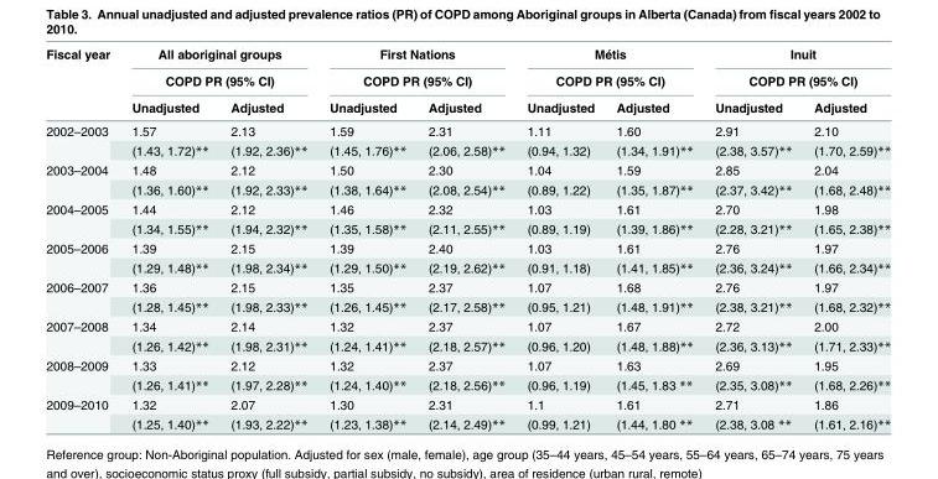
<table><thead><tr><td rowspan="3">Fiscal year</td><td rowspan="2" colspan="2">All aboriginal groups COPD PR (95% CI)</td><td rowspan="2" colspan="2">First Nations COPD PR (95% CI)</td><td rowspan="2" colspan="2">Métis COPD PR (95% CI)</td><td rowspan="2" colspan="2">Inuit COPD PR (95% CI)</td></tr><tr></tr><tr><td>Unadjusted</td><td>Adjusted</td><td>Unadjusted</td><td>Adjusted</td><td>Unadjusted</td><td>Adjusted</td><td>Unadjusted</td><td>Adjusted</td></tr></thead><tbody><tr><td rowspan="2">2002–2003</td><td>1.57</td><td>2.13</td><td>1.59</td><td>2.31</td><td>1.11</td><td>1.60</td><td>2.91</td><td>2.10</td></tr><tr><td>(1.43, 1.72)**</td><td>(1.92, 2.36)**</td><td>(1.45, 1.76)**</td><td>(2.06, 2.58)**</td><td>(0.94, 1.32)</td><td>(1.34, 1.91)**</td><td>(2.38, 3.57)**</td><td>(1.70, 2.59)**</td></tr><tr><td rowspan="2">2003–2004</td><td>1.48</td><td>2.12</td><td>1.50</td><td>2.30</td><td>1.04</td><td>1.59</td><td>2.85</td><td>2.04</td></tr><tr><td>(1.36, 1.60)**</td><td>(1.92, 2.33)**</td><td>(1.38, 1.64)**</td><td>(2.08, 2.54)**</td><td>(0.89, 1.22)</td><td>(1.35, 1.87)**</td><td>(2.37, 3.42)**</td><td>(1.68, 2.48)**</td></tr><tr><td rowspan="2">2004–2005</td><td>1.44</td><td>2.12</td><td>1.46</td><td>2.32</td><td>1.03</td><td>1.61</td><td>2.70</td><td>1.98</td></tr><tr><td>(1.34, 1.55)**</td><td>(1.94, 2.32)**</td><td>(1.35, 1.58)**</td><td>(2.11, 2.55)**</td><td>(0.89, 1.19)</td><td>(1.39, 1.86)**</td><td>(2.28, 3.21)**</td><td>(1.65, 2.38)**</td></tr><tr><td rowspan="2">2005–2006</td><td>1.39</td><td>2.15</td><td>1.39</td><td>2.40</td><td>1.03</td><td>1.61</td><td>2.76</td><td>1.97</td></tr><tr><td>(1.29, 1.48)**</td><td>(1.98, 2.34)**</td><td>(1.29, 1.50)**</td><td>(2.19, 2.62)**</td><td>(0.91, 1.18)</td><td>(1.41, 1.85)**</td><td>(2.36, 3.24)**</td><td>(1.66, 2.34)**</td></tr><tr><td rowspan="2">2006–2007</td><td>1.36</td><td>2.15</td><td>1.35</td><td>2.37</td><td>1.07</td><td>1.68</td><td>2.76</td><td>1.97</td></tr><tr><td>(1.28, 1.45)**</td><td>(1.98, 2.33)**</td><td>(1.26, 1.45)**</td><td>(2.17, 2.58)**</td><td>(0.95, 1.21)</td><td>(1.48, 1.91)**</td><td>(2.38, 3.21)**</td><td>(1.68, 2.32)**</td></tr><tr><td rowspan="2">2007–2008</td><td>1.34</td><td>2.14</td><td>1.32</td><td>2.37</td><td>1.07</td><td>1.67</td><td>2.72</td><td>2.00</td></tr><tr><td>(1.26, 1.42)**</td><td>(1.98, 2.31)**</td><td>(1.24, 1.41)**</td><td>(2.18, 2.57)**</td><td>(0.96, 1.20)</td><td>(1.48, 1.88)**</td><td>(2.36, 3.13)**</td><td>(1.71, 2.33)**</td></tr><tr><td rowspan="2">2008–2009</td><td>1.33</td><td>2.12</td><td>1.32</td><td>2.37</td><td>1.07</td><td>1.63</td><td>2.69</td><td>1.95</td></tr><tr><td>(1.26, 1.41)**</td><td>(1.97, 2.28)**</td><td>(1.24, 1.40)**</td><td>(2.18, 2.56)**</td><td>(0.96, 1.19)</td><td>(1.45, 1.83 **</td><td>(2.35, 3.08)**</td><td>(1.68, 2.26)**</td></tr><tr><td rowspan="2">2009–2010</td><td>1.32</td><td>2.07</td><td>1.30</td><td>2.31</td><td>1.1</td><td>1.61</td><td>2.71</td><td>1.86</td></tr><tr><td>(1.25, 1.40)**</td><td>(1.93, 2.22)**</td><td>(1.23, 1.38)**</td><td>(2.14, 2.49)**</td><td>(0.99, 1.21)</td><td>(1.44, 1.80 **</td><td>(2.38, 3.08 **</td><td>(1.61, 2.16)**</td></tr></tbody></table>